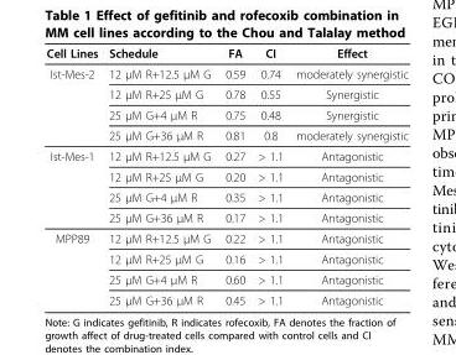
<table><thead><tr><td>Cell Lines</td><td>Schedule</td><td>FA</td><td>CI</td><td>Effect</td></tr></thead><tbody><tr><td rowspan="4">Ist-Mes-2</td><td>12 μM R+12.5 μM G</td><td>0.59</td><td>0.74</td><td>moderately synergistic</td></tr><tr><td>12 μM R+25 μM G</td><td>0.78</td><td>0.55</td><td>Synergistic</td></tr><tr><td>25 μM G+4 μM R</td><td>0.75</td><td>0.48</td><td>Synergistic</td></tr><tr><td>25 μM G+36 μM R</td><td>0.81</td><td>0.8</td><td>moderately synergistic</td></tr><tr><td rowspan="4">Ist-Mes-1</td><td>12 μM R+12.5 μM G</td><td>0.27</td><td>&gt; 1.1</td><td>Antagonistic</td></tr><tr><td>12 μM R+25 μM G</td><td>0.20</td><td>&gt; 1.1</td><td>Antagonistic</td></tr><tr><td>25 μM G+4 μM R</td><td>0.35</td><td>&gt; 1.1</td><td>Antagonistic</td></tr><tr><td>25 μM G+36 μM R</td><td>0.17</td><td>&gt; 1.1</td><td>Antagonistic</td></tr><tr><td rowspan="4">MPP89</td><td>12 μM R+12.5 μM G</td><td>0.22</td><td>&gt; 1.1</td><td>Antagonistic</td></tr><tr><td>12 μM R+25 μM G</td><td>0.16</td><td>&gt; 1.1</td><td>Antagonistic</td></tr><tr><td>25 μM G+4 μM R</td><td>0.60</td><td>&gt; 1.1</td><td>Antagonistic</td></tr><tr><td>25 μM G+36 μM R</td><td>0.45</td><td>&gt; 1.1</td><td>Antagonistic</td></tr></tbody></table>